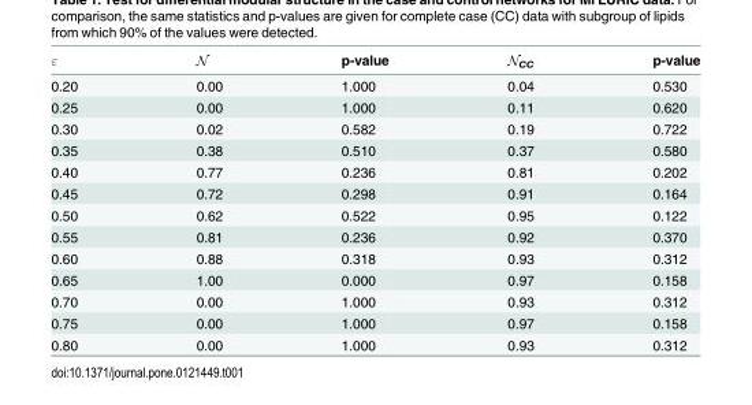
<table><thead><tr><td>&quot;</td><td>N</td><td>p-value</td><td>N<sub>CC</sub></td><td>p-value</td></tr></thead><tbody><tr><td>0.20</td><td>0.00</td><td>1.000</td><td>0.04</td><td>0.530</td></tr><tr><td>0.25</td><td>0.00</td><td>1.000</td><td>0.11</td><td>0.620</td></tr><tr><td>0.30</td><td>0.02</td><td>0.582</td><td>0.19</td><td>0.722</td></tr><tr><td>0.35</td><td>0.38</td><td>0.510</td><td>0.37</td><td>0.580</td></tr><tr><td>0.40</td><td>0.77</td><td>0.236</td><td>0.81</td><td>0.202</td></tr><tr><td>0.45</td><td>0.72</td><td>0.298</td><td>0.91</td><td>0.164</td></tr><tr><td>0.50</td><td>0.62</td><td>0.522</td><td>0.95</td><td>0.122</td></tr><tr><td>0.55</td><td>0.81</td><td>0.236</td><td>0.92</td><td>0.370</td></tr><tr><td>0.60</td><td>0.88</td><td>0.318</td><td>0.93</td><td>0.312</td></tr><tr><td>0.65</td><td>1.00</td><td>0.000</td><td>0.97</td><td>0.158</td></tr><tr><td>0.70</td><td>0.00</td><td>1.000</td><td>0.93</td><td>0.312</td></tr><tr><td>0.75</td><td>0.00</td><td>1.000</td><td>0.97</td><td>0.158</td></tr><tr><td>0.80</td><td>0.00</td><td>1.000</td><td>0.93</td><td>0.312</td></tr></tbody></table>